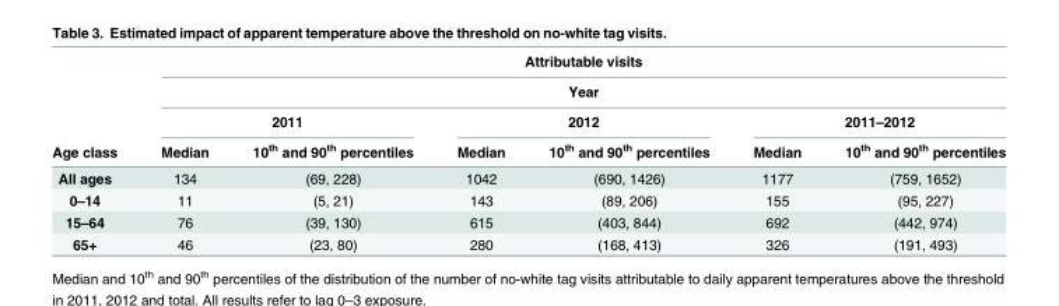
<table><thead><tr><td rowspan="4">Age class</td><td rowspan="2" colspan="6">Attributable visits Year</td></tr><tr></tr><tr><td colspan="2">2011</td><td colspan="2">2012</td><td colspan="2">2011–2012</td></tr><tr><td>Median</td><td>10<sup>th</sup> and 90<sup>th</sup> percentiles</td><td>Median</td><td>10<sup>th</sup> and 90<sup>th</sup> percentiles</td><td>Median</td><td>10<sup>th</sup> and 90<sup>th</sup> percentiles</td></tr></thead><tbody><tr><td>All ages</td><td>134</td><td>(69, 228)</td><td>1042</td><td>(690, 1426)</td><td>1177</td><td>(759, 1652)</td></tr><tr><td>0–14</td><td>11</td><td>(5, 21)</td><td>143</td><td>(89, 206)</td><td>155</td><td>(95, 227)</td></tr><tr><td>15–64</td><td>76</td><td>(39, 130)</td><td>615</td><td>(403, 844)</td><td>692</td><td>(442, 974)</td></tr><tr><td>65+</td><td>46</td><td>(23, 80)</td><td>280</td><td>(168, 413)</td><td>326</td><td>(191, 493)</td></tr></tbody></table>